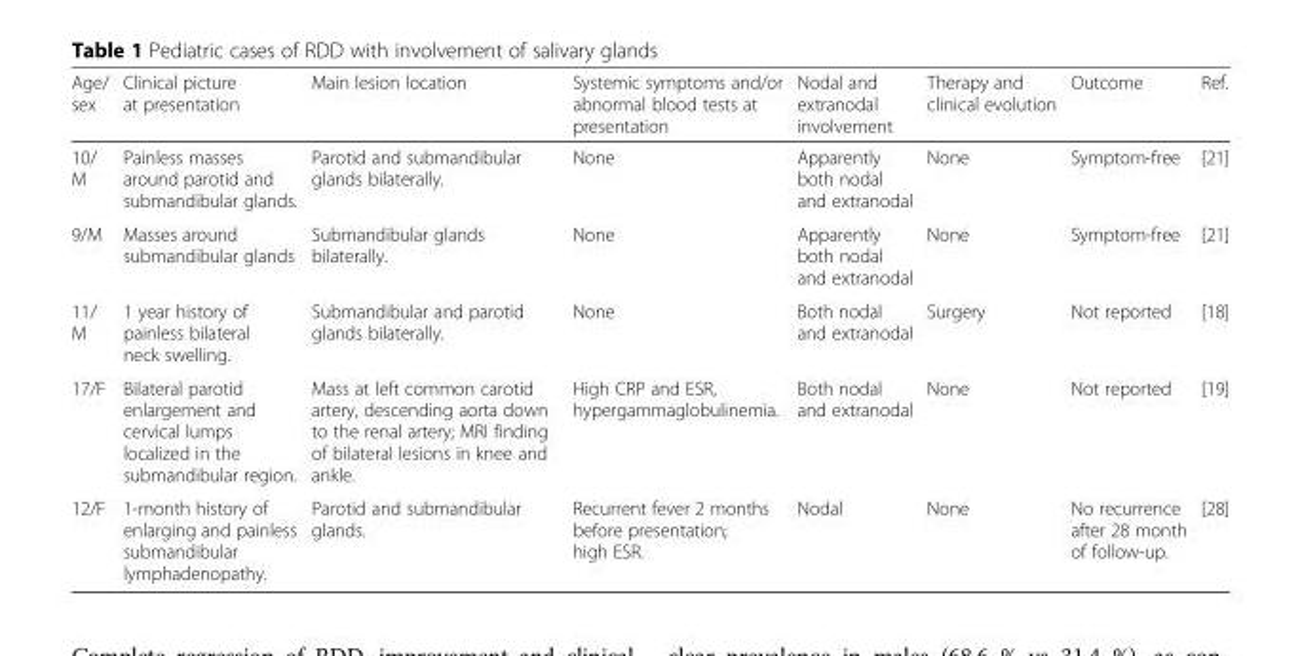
<table><thead><tr><td>Age/ sex</td><td>Clinical picture at presentation</td><td>Main lesion location</td><td>Systemic symptoms and/or abnormal blood tests at presentation</td><td>Nodal and extranodal involvement</td><td>Therapy and clinical evolution</td><td>Outcome</td><td>Ref.</td></tr></thead><tbody><tr><td>10/ M</td><td>Painless masses around parotid and submandibular glands.</td><td>Parotid and submandibular glands bilaterally.</td><td>None</td><td>Apparently both nodal and extranodal</td><td>None</td><td>Symptom-free</td><td>[21]</td></tr><tr><td>9/M</td><td>Masses around submandibular glands</td><td>Submandibular glands bilaterally.</td><td>None</td><td>Apparently both nodal and extranodal</td><td>None</td><td>Symptom-free</td><td>[21]</td></tr><tr><td>11/ M</td><td>1 year history of painless bilateral neck swelling.</td><td>Submandibular and parotid glands bilaterally.</td><td>None</td><td>Both nodal and extranodal</td><td>Surgery</td><td>Not reported</td><td>[18]</td></tr><tr><td>17/F</td><td>Bilateral parotid enlargement and cervical lumps localized in the submandibular region.</td><td>Mass at left common carotid artery, descending aorta down to the renal artery; MRI finding of bilateral lesions in knee and ankle.</td><td>High CRP and ESR, hypergammaglobulinemia.</td><td>Both nodal and extranodal</td><td>None</td><td>Not reported</td><td>[19]</td></tr><tr><td>12/F</td><td>1-month history of enlarging and painless submandibular lymphadenopathy.</td><td>Parotid and submandibular glands.</td><td>Recurrent fever 2 months before presentation; high ESR.</td><td>Nodal</td><td>None</td><td>No recurrence after 28 month of follow-up.</td><td>[28]</td></tr></tbody></table>